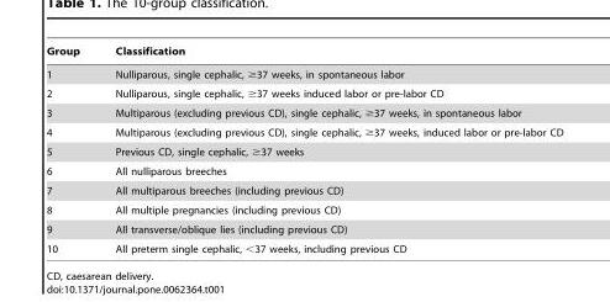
<table><thead><tr><td>Group</td><td>Classification</td></tr></thead><tbody><tr><td>1</td><td>Nulliparous, single cephalic, ≥37 weeks, in spontaneous labor</td></tr><tr><td>2</td><td>Nulliparous, single cephalic, ≥37 weeks induced labor or pre-labor CD</td></tr><tr><td>3</td><td>Multiparous (excluding previous CD), single cephalic, ≥37 weeks, in spontaneous labor</td></tr><tr><td>4</td><td>Multiparous (excluding previous CD), single cephalic, ≥37 weeks, induced labor or pre-labor CD</td></tr><tr><td>5</td><td>Previous CD, single cephalic, ≥37 weeks</td></tr><tr><td>6</td><td>All nulliparous breeches</td></tr><tr><td>7</td><td>All multiparous breeches (including previous CD)</td></tr><tr><td>8</td><td>All multiple pregnancies (including previous CD)</td></tr><tr><td>9</td><td>All transverse/oblique lies (including previous CD)</td></tr><tr><td>10</td><td>All preterm single cephalic, &lt;37 weeks, including previous CD</td></tr></tbody></table>